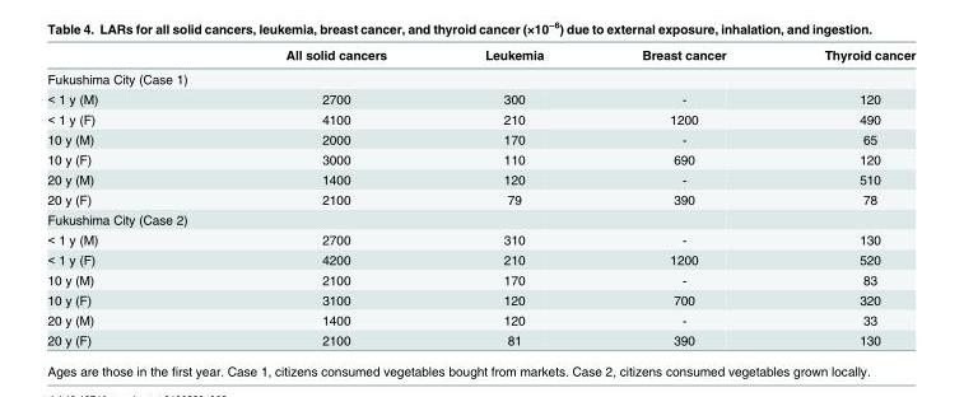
<table><thead><tr><td></td><td>All solid cancers</td><td>Leukemia</td><td>Breast cancer</td><td>Thyroid cancer</td></tr></thead><tbody><tr><td colspan="5">Fukushima City (Case 1)</td></tr><tr><td>&lt; 1 y (M)</td><td>2700</td><td>300</td><td>-</td><td>120</td></tr><tr><td>&lt; 1 y (F)</td><td>4100</td><td>210</td><td>1200</td><td>490</td></tr><tr><td>10 y (M)</td><td>2000</td><td>170</td><td>-</td><td>65</td></tr><tr><td>10 y (F)</td><td>3000</td><td>110</td><td>690</td><td>120</td></tr><tr><td>20 y (M)</td><td>1400</td><td>120</td><td>-</td><td>510</td></tr><tr><td>20 y (F)</td><td>2100</td><td>79</td><td>390</td><td>78</td></tr><tr><td colspan="5">Fukushima City (Case 2)</td></tr><tr><td>&lt; 1 y (M)</td><td>2700</td><td>310</td><td>-</td><td>130</td></tr><tr><td>&lt; 1 y (F)</td><td>4200</td><td>210</td><td>1200</td><td>520</td></tr><tr><td>10 y (M)</td><td>2100</td><td>170</td><td>-</td><td>83</td></tr><tr><td>10 y (F)</td><td>3100</td><td>120</td><td>700</td><td>320</td></tr><tr><td>20 y (M)</td><td>1400</td><td>120</td><td>-</td><td>33</td></tr><tr><td>20 y (F)</td><td>2100</td><td>81</td><td>390</td><td>130</td></tr></tbody></table>